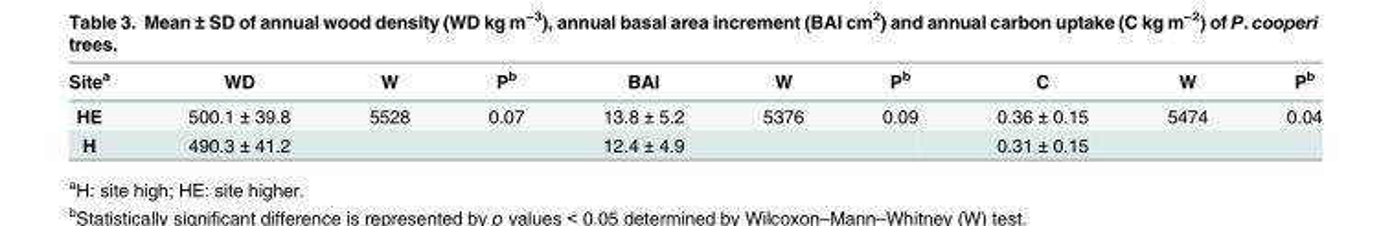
<table><thead><tr><td>Site<sup>a</sup></td><td>WD</td><td>W</td><td>P<sup>b</sup></td><td>BAI</td><td>W</td><td>P<sup>b</sup></td><td>C</td><td>W</td><td>P<sup>b</sup></td></tr></thead><tbody><tr><td>HE</td><td>500.1 ± 39.8</td><td>5528</td><td>0.07</td><td>13.8 ± 5.2</td><td>5376</td><td>0.09</td><td>0.36 ± 0.15</td><td>5474</td><td>0.04</td></tr><tr><td>H</td><td>490.3 ± 41.2</td><td></td><td></td><td>12.4 ± 4.9</td><td></td><td></td><td>0.31 ± 0.15</td><td></td><td></td></tr></tbody></table>